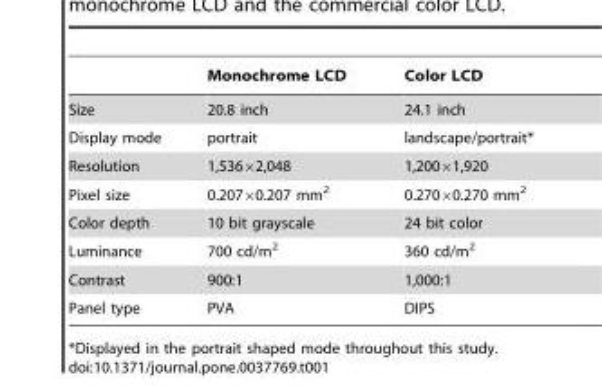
<table><thead><tr><td></td><td>Monochrome LCD</td><td>Color LCD</td></tr></thead><tbody><tr><td>Size</td><td>20.8 inch</td><td>24.1 inch</td></tr><tr><td>Display mode</td><td>portrait</td><td>landscape/portrait*</td></tr><tr><td>Resolution</td><td>1,536×2,048</td><td>1,200×1,920</td></tr><tr><td>Pixel size</td><td>0.207×0.207 mm<sup>2</sup></td><td>0.270×0.270 mm<sup>2</sup></td></tr><tr><td>Color depth</td><td>10 bit grayscale</td><td>24 bit color</td></tr><tr><td>Luminance</td><td>700 cd/m<sup>2</sup></td><td>360 cd/m<sup>2</sup></td></tr><tr><td>Contrast</td><td>900:1</td><td>1,000:1</td></tr><tr><td>Panel type</td><td>PVA</td><td>DIPS</td></tr></tbody></table>